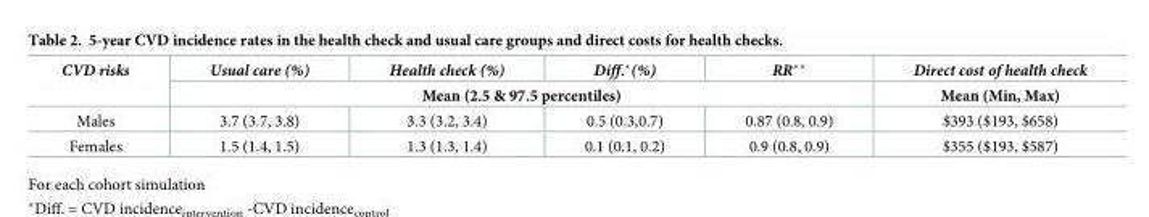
<table><thead><tr><td rowspan="2">CVD risks</td><td>Usual care (%)</td><td>Health check (%)</td><td>Diff.*(%)</td><td>RR**</td><td rowspan="2">Direct cost of health check Mean (Min, Max)</td></tr><tr><td colspan="4">Mean (2.5 &amp; 97.5 percentiles)</td></tr></thead><tbody><tr><td>Males</td><td>3.7 (3.7, 3.8)</td><td>3.3 (3.2, 3.4)</td><td>0.5 (0.3,0.7)</td><td>0.87 (0.8, 0.9)</td><td>$393 ($193, $658)</td></tr><tr><td>Females</td><td>1.5 (1.4, 1.5)</td><td>1.3 (1.3, 1.4)</td><td>0.1 (0.1, 0.2)</td><td>0.9 (0.8, 0.9)</td><td>$355 ($193, $587)</td></tr></tbody></table>